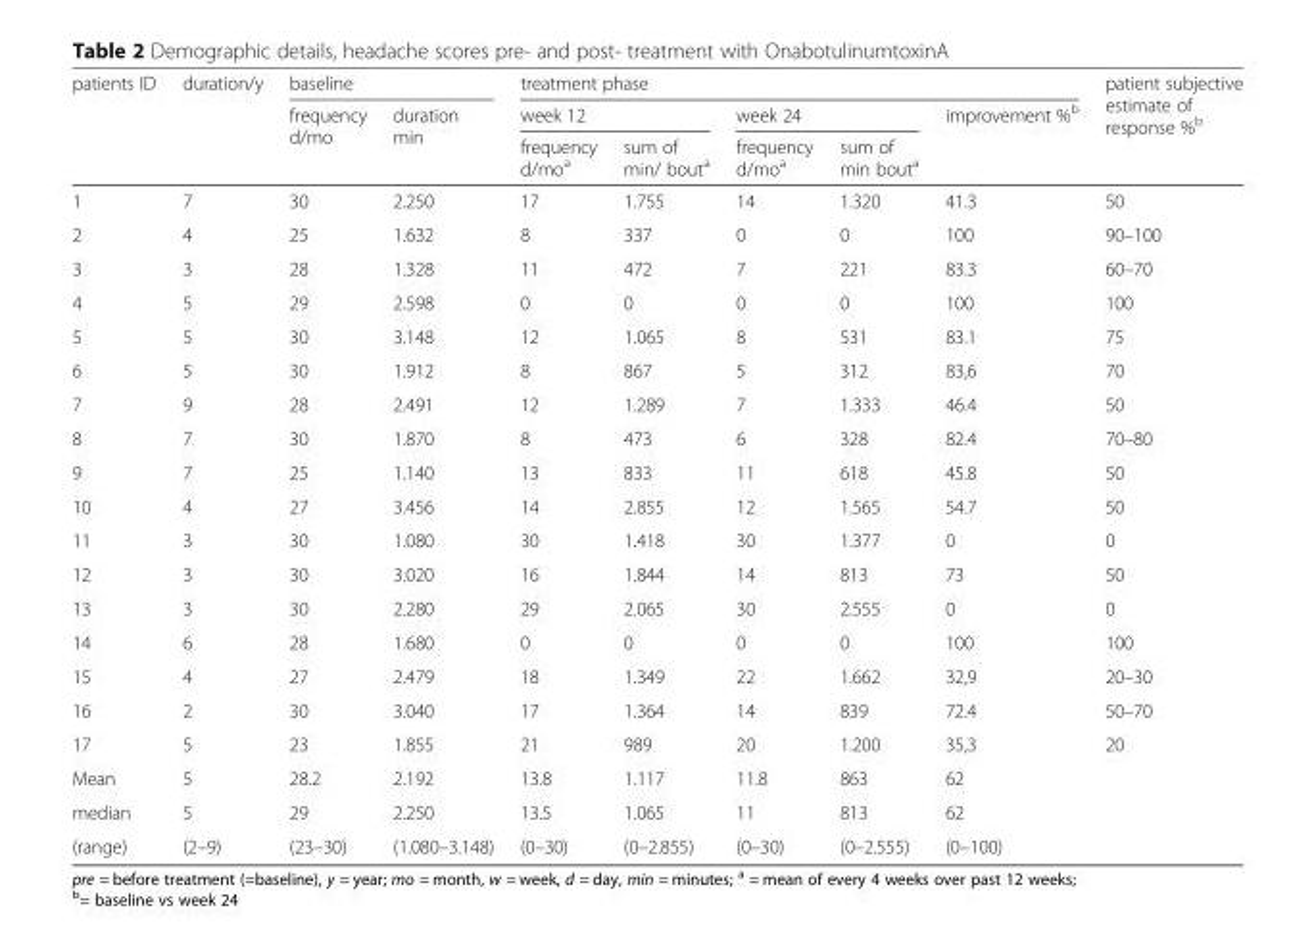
<table><thead><tr><td rowspan="3">patients ID</td><td rowspan="3">duration/y</td><td colspan="2">baseline</td><td colspan="5">treatment phase</td><td rowspan="3">patient subjective estimate of response %<sup>b</sup></td></tr><tr><td rowspan="2">frequency d/mo</td><td rowspan="2">duration min</td><td colspan="2">week 12</td><td colspan="2">week 24</td><td rowspan="2">improvement %<sup>b</sup></td></tr><tr><td>frequency d/mo<sup>a</sup></td><td>sum of min/ bout<sup>a</sup></td><td>frequency d/mo<sup>a</sup></td><td>sum of min bout<sup>a</sup></td></tr></thead><tbody><tr><td>1</td><td>7</td><td>30</td><td>2.250</td><td>17</td><td>1.755</td><td>14</td><td>1.320</td><td>41.3</td><td>50</td></tr><tr><td>2</td><td>4</td><td>25</td><td>1.632</td><td>8</td><td>337</td><td>0</td><td>0</td><td>100</td><td>90–100</td></tr><tr><td>3</td><td>3</td><td>28</td><td>1.328</td><td>11</td><td>472</td><td>7</td><td>221</td><td>83.3</td><td>60–70</td></tr><tr><td>4</td><td>5</td><td>29</td><td>2.598</td><td>0</td><td>0</td><td>0</td><td>0</td><td>100</td><td>100</td></tr><tr><td>5</td><td>5</td><td>30</td><td>3.148</td><td>12</td><td>1.065</td><td>8</td><td>531</td><td>83.1</td><td>75</td></tr><tr><td>6</td><td>5</td><td>30</td><td>1.912</td><td>8</td><td>867</td><td>5</td><td>312</td><td>83,6</td><td>70</td></tr><tr><td>7</td><td>9</td><td>28</td><td>2.491</td><td>12</td><td>1.289</td><td>7</td><td>1.333</td><td>46.4</td><td>50</td></tr><tr><td>8</td><td>7</td><td>30</td><td>1.870</td><td>8</td><td>473</td><td>6</td><td>328</td><td>82.4</td><td>70–80</td></tr><tr><td>9</td><td>7</td><td>25</td><td>1.140</td><td>13</td><td>833</td><td>11</td><td>618</td><td>45.8</td><td>50</td></tr><tr><td>10</td><td>4</td><td>27</td><td>3.456</td><td>14</td><td>2.855</td><td>12</td><td>1.565</td><td>54.7</td><td>50</td></tr><tr><td>11</td><td>3</td><td>30</td><td>1.080</td><td>30</td><td>1.418</td><td>30</td><td>1.377</td><td>0</td><td>0</td></tr><tr><td>12</td><td>3</td><td>30</td><td>3.020</td><td>16</td><td>1.844</td><td>14</td><td>813</td><td>73</td><td>50</td></tr><tr><td>13</td><td>3</td><td>30</td><td>2.280</td><td>29</td><td>2.065</td><td>30</td><td>2.555</td><td>0</td><td>0</td></tr><tr><td>14</td><td>6</td><td>28</td><td>1.680</td><td>0</td><td>0</td><td>0</td><td>0</td><td>100</td><td>100</td></tr><tr><td>15</td><td>4</td><td>27</td><td>2.479</td><td>18</td><td>1.349</td><td>22</td><td>1.662</td><td>32,9</td><td>20–30</td></tr><tr><td>16</td><td>2</td><td>30</td><td>3.040</td><td>17</td><td>1.364</td><td>14</td><td>839</td><td>72.4</td><td>50–70</td></tr><tr><td>17</td><td>5</td><td>23</td><td>1.855</td><td>21</td><td>989</td><td>20</td><td>1.200</td><td>35,3</td><td rowspan="4">20</td></tr><tr><td>Mean</td><td>5</td><td>28.2</td><td>2.192</td><td>13.8</td><td>1.117</td><td>11.8</td><td>863</td><td>62</td></tr><tr><td>median</td><td>5</td><td>29</td><td>2.250</td><td>13.5</td><td>1.065</td><td>11</td><td>813</td><td>62</td></tr><tr><td>(range)</td><td>(2–9)</td><td>(23–30)</td><td>(1.080–3.148)</td><td>(0–30)</td><td>(0–2.855)</td><td>(0–30)</td><td>(0–2.555)</td><td>(0–100)</td></tr></tbody></table>